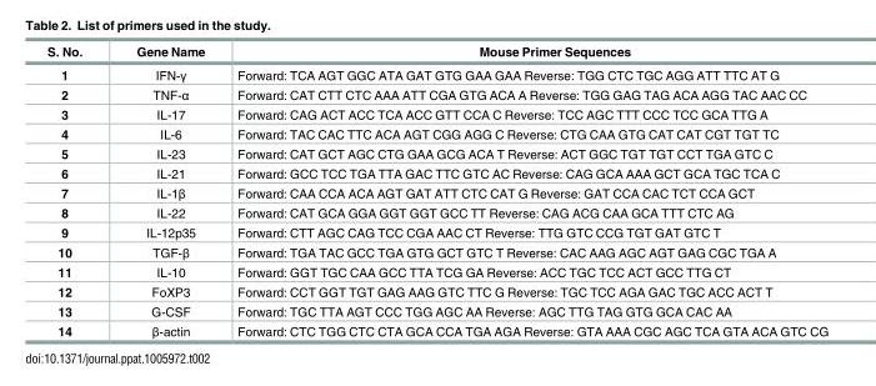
<table><thead><tr><td>S. No.</td><td>Gene Name</td><td>Mouse Primer Sequences</td></tr></thead><tbody><tr><td>1</td><td>IFN-γ</td><td>Forward: TCA AGT GGC ATA GAT GTG GAA GAA Reverse: TGG CTC TGC AGG ATT TTC AT G</td></tr><tr><td>2</td><td>TNF-α</td><td>Forward: CAT CTT CTC AAA ATT CGA GTG ACA A Reverse: TGG GAG TAG ACA AGG TAC AAC CC</td></tr><tr><td>3</td><td>IL-17</td><td>Forward: CAG ACT ACC TCA ACC GTT CCA C Reverse: TCC AGC TTT CCC TCC GCA TTG A</td></tr><tr><td>4</td><td>IL-6</td><td>Forward: TAC CAC TTC ACA AGT CGG AGG C Reverse: CTG CAA GTG CAT CAT CGT TGT TC</td></tr><tr><td>5</td><td>IL-23</td><td>Forward: CAT GCT AGC CTG GAA GCG ACA T Reverse: ACT GGC TGT TGT CCT TGA GTC C</td></tr><tr><td>6</td><td>IL-21</td><td>Forward: GCC TCC TGA TTA GAC TTC GTC AC Reverse: CAG GCA AAA GCT GCA TGC TCA C</td></tr><tr><td>7</td><td>IL-1β</td><td>Forward: CAA CCA ACA AGT GAT ATT CTC CAT G Reverse: GAT CCA CAC TCT CCA GCT</td></tr><tr><td>8</td><td>IL-22</td><td>Forward: CAT GCA GGA GGT GGT GCC TT Reverse: CAG ACG CAA GCA TTT CTC AG</td></tr><tr><td>9</td><td>IL-12p35</td><td>Forward: CTT AGC CAG TCC CGA AAC CT Reverse: TTG GTC CCG TGT GAT GTC T</td></tr><tr><td>10</td><td>TGF-β</td><td>Forward: TGA TAC GCC TGA GTG GCT GTC T Reverse: CAC AAG AGC AGT GAG CGC TGA A</td></tr><tr><td>11</td><td>IL-10</td><td>Forward: GGT TGC CAA GCC TTA TCG GA Reverse: ACC TGC TCC ACT GCC TTG CT</td></tr><tr><td>12</td><td>FoXP3</td><td>Forward: CCT GGT TGT GAG AAG GTC TTC G Reverse: TGC TCC AGA GAC TGC ACC ACT T</td></tr><tr><td>13</td><td>G-CSF</td><td>Forward: TGC TTA AGT CCC TGG AGC AA Reverse: AGC TTG TAG GTG GCA CAC AA</td></tr><tr><td>14</td><td>β-actin</td><td>Forward: CTC TGG CTC CTA GCA CCA TGA AGA Reverse: GTA AAA CGC AGC TCA GTA ACA GTC CG</td></tr></tbody></table>